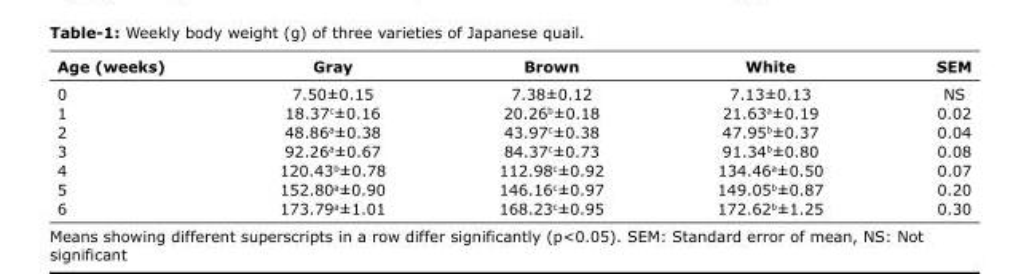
<table><thead><tr><td>Age (weeks)</td><td>Gray</td><td>Brown</td><td>White</td><td>SEM</td></tr></thead><tbody><tr><td>0</td><td>7.50±0.15</td><td>7.38±0.12</td><td>7.13±0.13</td><td>NS</td></tr><tr><td>1</td><td>18.37<sup>c</sup>±0.16</td><td>20.26<sup>b</sup>±0.18</td><td>21.63<sup>a</sup>±0.19</td><td>0.02</td></tr><tr><td>2</td><td>48.86<sup>a</sup>±0.38</td><td>43.97<sup>c</sup>±0.38</td><td>47.95<sup>b</sup>±0.37</td><td>0.04</td></tr><tr><td>3</td><td>92.26<sup>a</sup>±0.67</td><td>84.37<sup>c</sup>±0.73</td><td>91.34<sup>b</sup>±0.80</td><td>0.08</td></tr><tr><td>4</td><td>120.43<sup>b</sup>±0.78</td><td>112.98<sup>c</sup>±0.92</td><td>134.46<sup>a</sup>±0.50</td><td>0.07</td></tr><tr><td>5</td><td>152.80<sup>a</sup>±0.90</td><td>146.16<sup>c</sup>±0.97</td><td>149.05<sup>b</sup>±0.87</td><td>0.20</td></tr><tr><td>6</td><td>173.79<sup>a</sup>±1.01</td><td>168.23<sup>c</sup>±0.95</td><td>172.62<sup>b</sup>±1.25</td><td>0.30</td></tr></tbody></table>